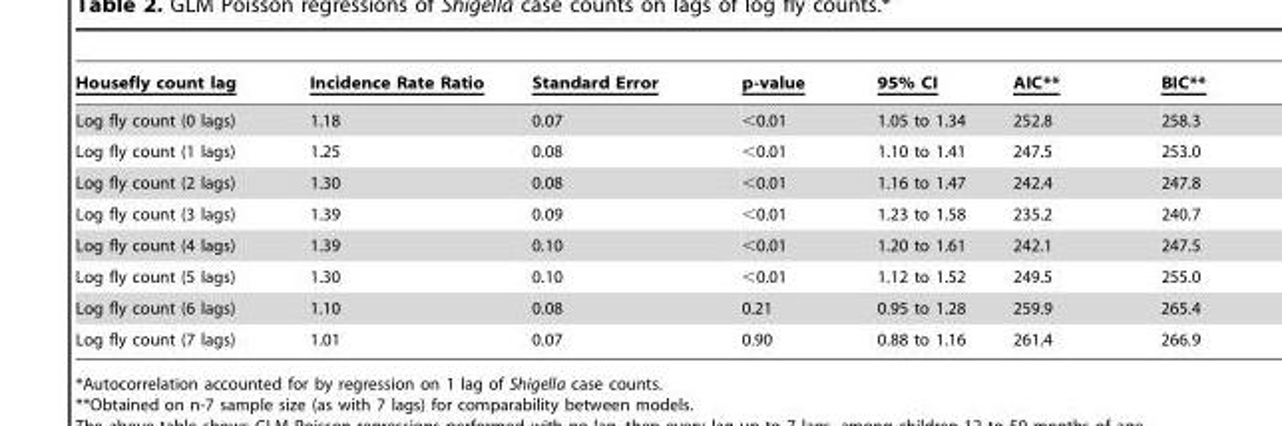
<table><thead><tr><td>Housefly count lag</td><td>Incidence Rate Ratio</td><td>Standard Error</td><td>p-value</td><td>95% CI</td><td>AIC**</td><td>BIC**</td></tr></thead><tbody><tr><td>Log fly count (0 lags)</td><td>1.18</td><td>0.07</td><td>&lt;0.01</td><td>1.05 to 1.34</td><td>252.8</td><td>258.3</td></tr><tr><td>Log fly count (1 lags)</td><td>1.25</td><td>0.08</td><td>&lt;0.01</td><td>1.10 to 1.41</td><td>247.5</td><td>253.0</td></tr><tr><td>Log fly count (2 lags)</td><td>1.30</td><td>0.08</td><td>&lt;0.01</td><td>1.16 to 1.47</td><td>242.4</td><td>247.8</td></tr><tr><td>Log fly count (3 lags)</td><td>1.39</td><td>0.09</td><td>&lt;0.01</td><td>1.23 to 1.58</td><td>235.2</td><td>240.7</td></tr><tr><td>Log fly count (4 lags)</td><td>1.39</td><td>0.10</td><td>&lt;0.01</td><td>1.20 to 1.61</td><td>242.1</td><td>247.5</td></tr><tr><td>Log fly count (5 lags)</td><td>1.30</td><td>0.10</td><td>&lt;0.01</td><td>1.12 to 1.52</td><td>249.5</td><td>255.0</td></tr><tr><td>Log fly count (6 lags)</td><td>1.10</td><td>0.08</td><td>0.21</td><td>0.95 to 1.28</td><td>259.9</td><td>265.4</td></tr><tr><td>Log fly count (7 lags)</td><td>1.01</td><td>0.07</td><td>0.90</td><td>0.88 to 1.16</td><td>261.4</td><td>266.9</td></tr></tbody></table>